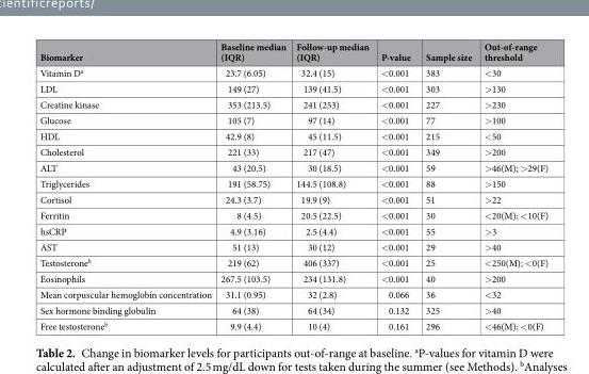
<table><thead><tr><td>Biomarker</td><td>Baseline median (IQR)</td><td>Follow-up median (IQR)</td><td>P-value</td><td>Sample size</td><td>Out-of-range threshold</td></tr></thead><tbody><tr><td>Vitamin D<sup>a</sup></td><td>23.7 (6.05)</td><td>32.4 (15)</td><td>&lt;0.001</td><td>383</td><td>&lt;30</td></tr><tr><td>LDL</td><td>149 (27)</td><td>139 (41.5)</td><td>&lt;0.001</td><td>303</td><td>&gt;130</td></tr><tr><td>Creatine kinase</td><td>353 (213.5)</td><td>241 (253)</td><td>&lt;0.001</td><td>227</td><td>&gt;230</td></tr><tr><td>Glucose</td><td>105 (7)</td><td>97 (14)</td><td>&lt;0.001</td><td>77</td><td>&gt;100</td></tr><tr><td>HDL</td><td>42.9 (8)</td><td>45 (11.5)</td><td>&lt;0.001</td><td>215</td><td>&lt;50</td></tr><tr><td>Cholesterol</td><td>221 (33)</td><td>217 (47)</td><td>&lt;0.001</td><td>349</td><td>&gt;200</td></tr><tr><td>ALT</td><td>43 (20.5)</td><td>30 (18.5)</td><td>&lt;0.001</td><td>59</td><td>&gt;46(M); &gt;29(F)</td></tr><tr><td>Triglycerides</td><td>191 (58.75)</td><td>144.5 (108.8)</td><td>&lt;0.001</td><td>88</td><td>&gt;150</td></tr><tr><td>Cortisol</td><td>24.3 (3.7)</td><td>19.9 (9)</td><td>&lt;0.001</td><td>51</td><td>&gt;22</td></tr><tr><td>Ferritin</td><td>8 (4.5)</td><td>20.5 (22.5)</td><td>&lt;0.001</td><td>30</td><td>&lt;20(M); &lt;10(F)</td></tr><tr><td>hsCRP</td><td>4.9 (3.16)</td><td>2.5 (4.4)</td><td>&lt;0.001</td><td>55</td><td>&gt;3</td></tr><tr><td>AST</td><td>51 (13)</td><td>30 (12)</td><td>&lt;0.001</td><td>29</td><td>&gt;40</td></tr><tr><td>Testosterone<sup>b</sup></td><td>219 (62)</td><td>406 (337)</td><td>&lt;0.001</td><td>25</td><td>&lt;250(M); &lt;0(F)</td></tr><tr><td>Eosinophils</td><td>267.5 (103.5)</td><td>234 (131.8)</td><td>&lt;0.001</td><td>40</td><td>&gt;200</td></tr><tr><td>Mean corpuscular hemoglobin concentration</td><td>31.1 (0.95)</td><td>32 (2.8)</td><td>0.066</td><td>36</td><td>&lt;32</td></tr><tr><td>Sex hormone binding globulin</td><td>64 (38)</td><td>64 (34)</td><td>0.132</td><td>325</td><td>&gt;40</td></tr><tr><td>Free testosterone<sup>b</sup></td><td>9.9 (4.4)</td><td>10 (4)</td><td>0.161</td><td>296</td><td>&lt;46(M); &lt;0(F)</td></tr></tbody></table>